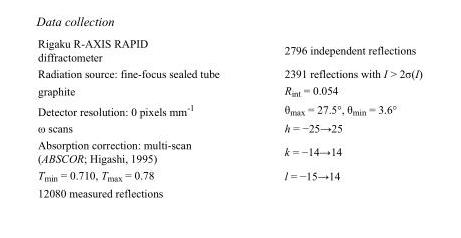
<table><tbody><tr><td>Rigaku R-AXIS RAPID diffractometer</td><td>2796 independent reflections</td></tr><tr><td>Radiation source: fine-focus sealed tube</td><td>2391 reflections with I &gt; 2σ(I)</td></tr><tr><td>graphite</td><td>R<sub>int</sub> = 0.054</td></tr><tr><td>Detector resolution: 0 pixels mm<sup>-1</sup></td><td>θ<sub>max</sub> = 27.5°, θ<sub>min</sub> = 3.6°</td></tr><tr><td>ω scans</td><td>h = −25→25</td></tr><tr><td>Absorption correction: multi-scan (ABSCOR; Higashi, 1995)</td><td>k = −14→14</td></tr><tr><td>T<sub>min</sub> = 0.710, T<sub>max</sub> = 0.78</td><td>l = −15→14</td></tr><tr><td>12080 measured reflections</td><td></td></tr></tbody></table>